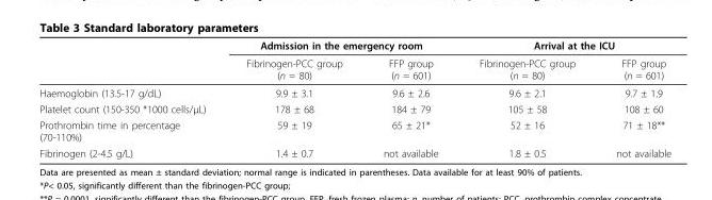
<table><thead><tr><td rowspan="2"></td><td colspan="2">Admission in the emergency room</td><td colspan="2">Arrival at the ICU</td></tr><tr><td>Fibrinogen-PCC group (n = 80)</td><td>FFP group (n = 601)</td><td>Fibrinogen-PCC group (n = 80)</td><td>FFP group (n = 601)</td></tr></thead><tbody><tr><td>Haemoglobin (13.5-17 g/dL)</td><td>9.9 ± 3.1</td><td>9.6 ± 2.6</td><td>9.6 ± 2.1</td><td>9.7 ± 1.9</td></tr><tr><td>Platelet count (150-350 *1000 cells/μL)</td><td>178 ± 68</td><td>184 ± 79</td><td>105 ± 58</td><td>108 ± 60</td></tr><tr><td>Prothrombin time in percentage (70-110%)</td><td>59 ± 19</td><td>65 ± 21*</td><td>52 ± 16</td><td>71 ± 18**</td></tr><tr><td>Fibrinogen (2-4.5 g/L)</td><td>1.4 ± 0.7</td><td>not available</td><td>1.8 ± 0.5</td><td>not available</td></tr></tbody></table>